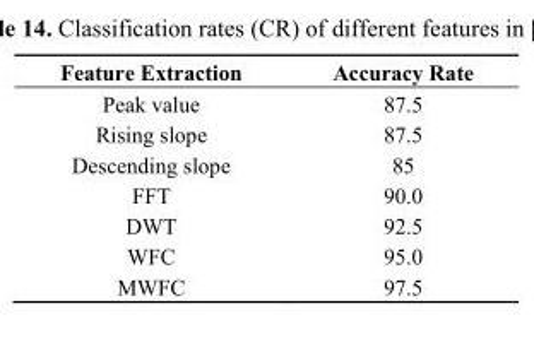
<table><thead><tr><td>Feature Extraction</td><td>Accuracy Rate</td></tr></thead><tbody><tr><td>Peak value</td><td>87.5</td></tr><tr><td>Rising slope</td><td>87.5</td></tr><tr><td>Descending slope</td><td>85</td></tr><tr><td>FFT</td><td>90.0</td></tr><tr><td>DWT</td><td>92.5</td></tr><tr><td>WFC</td><td>95.0</td></tr><tr><td>MWFC</td><td>97.5</td></tr></tbody></table>